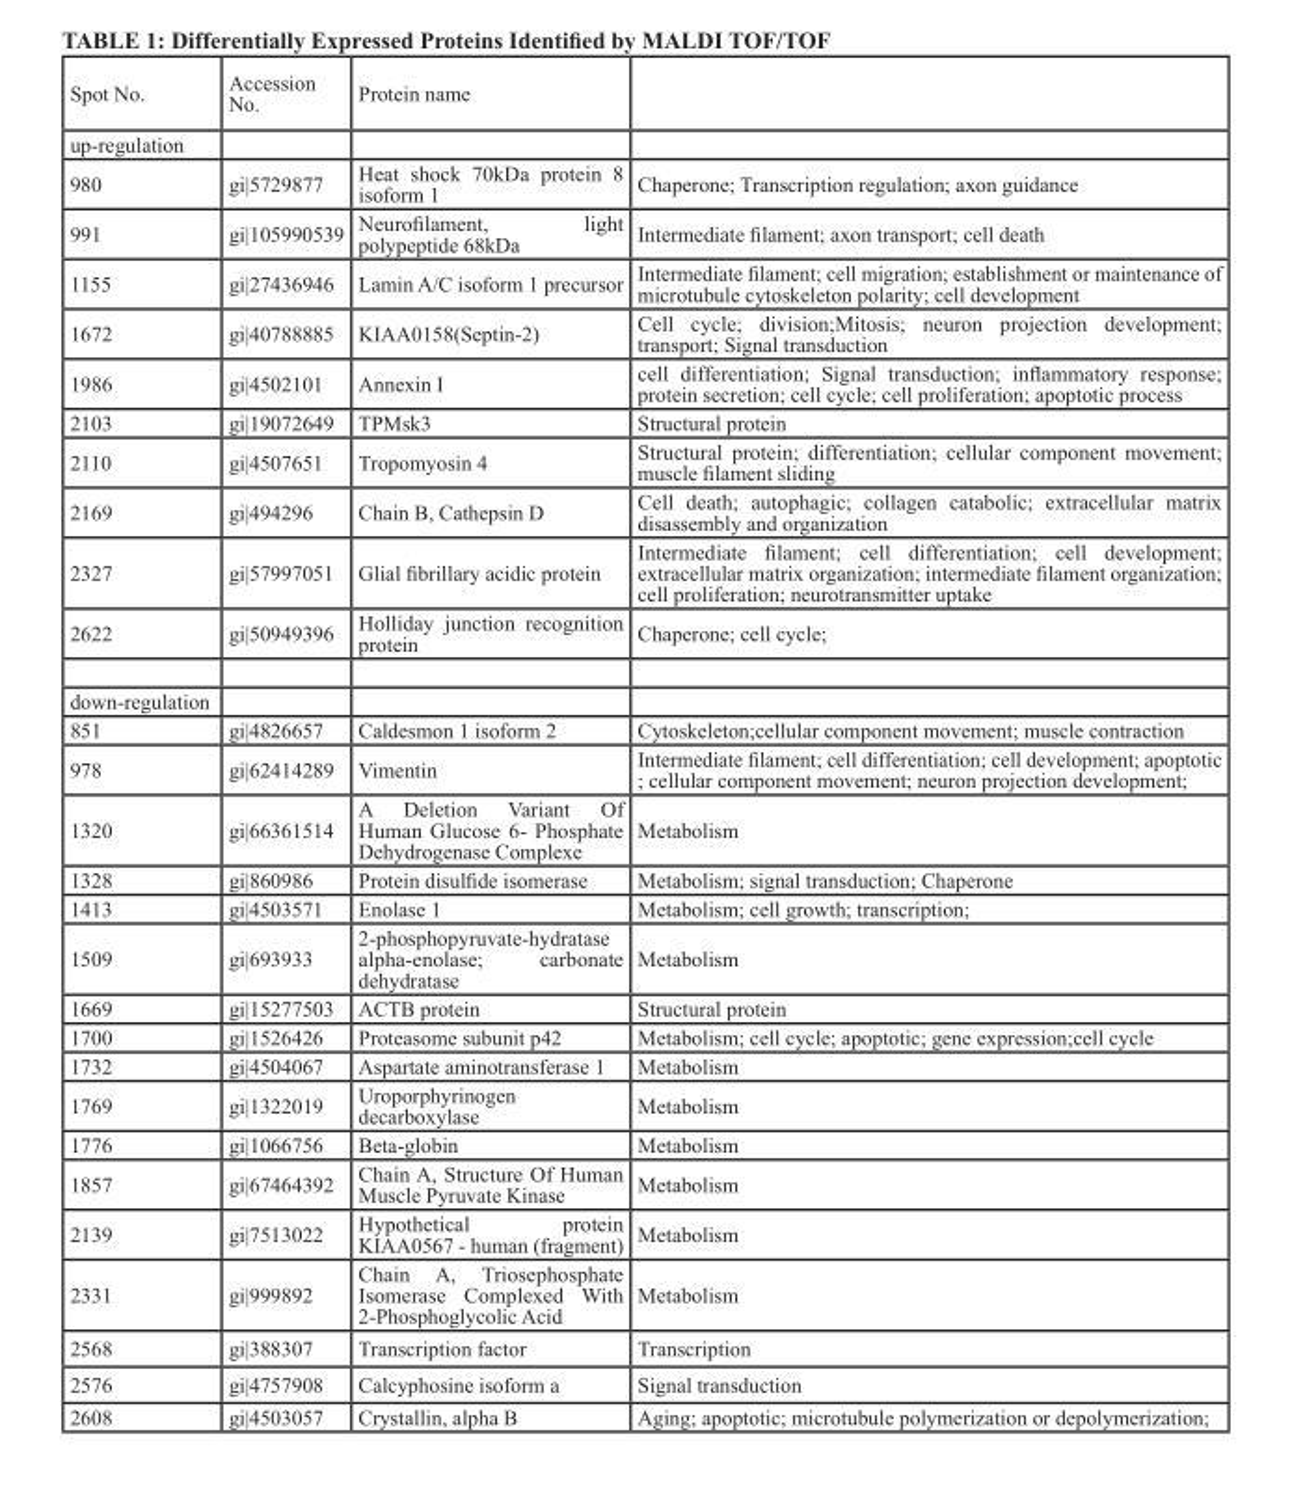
<table><thead><tr><td>Spot No.</td><td>Accession No.</td><td>Protein name</td><td></td></tr></thead><tbody><tr><td colspan="4">up-regulation</td></tr><tr><td>980</td><td>gi|5729877</td><td>Heat shock 70kDa protein 8 isoform 1</td><td>Chaperone; Transcription regulation; axon guidance</td></tr><tr><td>991</td><td>gi|105990539</td><td>Neurofilament, light polypeptide 68kDa</td><td>Intermediate filament; axon transport; cell death</td></tr><tr><td>1155</td><td>gi|27436946</td><td>Lamin A/C isoform 1 precursor</td><td>Intermediate filament; cell migration; establishment or maintenance of microtubule cytoskeleton polarity; cell development</td></tr><tr><td>1672</td><td>gi|40788885</td><td>KIAA0158(Septin-2)</td><td>Cell cycle; division;Mitosis; neuron projection development; transport; Signal transduction</td></tr><tr><td>1986</td><td>gi|4502101</td><td>Annexin I</td><td>cell differentiation; Signal transduction; inflammatory response; protein secretion; cell cycle; cell proliferation; apoptotic process</td></tr><tr><td>2103</td><td>gi|19072649</td><td>TPMsk3</td><td>Structural protein</td></tr><tr><td>2110</td><td>gi|4507651</td><td>Tropomyosin 4</td><td>Structural protein; differentiation; cellular component movement; muscle filament sliding</td></tr><tr><td>2169</td><td>gi|494296</td><td>Chain B, Cathepsin D</td><td>Cell death; autophagic; collagen catabolic; extracellular matrix disassembly and organization</td></tr><tr><td>2327</td><td>gi|57997051</td><td>Glial fibrillary acidic protein</td><td>Intermediate filament; cell differentiation; cell development; extracellular matrix organization; intermediate filament organization; cell proliferation; neurotransmitter uptake</td></tr><tr><td>2622</td><td>gi|50949396</td><td>Holliday junction recognition protein</td><td>Chaperone; cell cycle;</td></tr><tr><td colspan="4">down-regulation</td></tr><tr><td>851</td><td>gi|4826657</td><td>Caldesmon 1 isoform 2</td><td>Cytoskeleton;cellular component movement; muscle contraction</td></tr><tr><td>978</td><td>gi|62414289</td><td>Vimentin</td><td>Intermediate filament; cell differentiation; cell development; apoptotic ; cellular component movement; neuron projection development;</td></tr><tr><td>1320</td><td>gi|66361514</td><td>A Deletion Variant Of Human Glucose 6- Phosphate Dehydrogenase Complexe</td><td>Metabolism</td></tr><tr><td>1328</td><td>gi|860986</td><td>Protein disulfide isomerase</td><td>Metabolism; signal transduction; Chaperone</td></tr><tr><td>1413</td><td>gi|4503571</td><td>Enolase 1</td><td>Metabolism; cell growth; transcription;</td></tr><tr><td>1509</td><td>gi|693933</td><td>2-phosphopyruvate-hydratase alpha-enolase; carbonate dehydratase</td><td>Metabolism</td></tr><tr><td>1669</td><td>gi|15277503</td><td>ACTB protein</td><td>Structural protein</td></tr><tr><td>1700</td><td>gi|1526426</td><td>Proteasome subunit p42</td><td>Metabolism; cell cycle; apoptotic; gene expression;cell cycle</td></tr><tr><td>1732</td><td>gi|4504067</td><td>Aspartate aminotransferase 1</td><td>Metabolism</td></tr><tr><td>1769</td><td>gi|1322019</td><td>Uroporphyrinogen decarboxylase</td><td>Metabolism</td></tr><tr><td>1776</td><td>gi|1066756</td><td>Beta-globin</td><td>Metabolism</td></tr><tr><td>1857</td><td>gi|67464392</td><td>Chain A, Structure Of Human Muscle Pyruvate Kinase</td><td>Metabolism</td></tr><tr><td>2139</td><td>gi|7513022</td><td>Hypothetical protein KIAA0567 - human (fragment)</td><td>Metabolism</td></tr><tr><td>2331</td><td>gi|999892</td><td>Chain A, Triosephosphate Isomerase Complexed With 2-Phosphoglycolic Acid</td><td>Metabolism</td></tr><tr><td>2568</td><td>gi|388307</td><td>Transcription factor</td><td>Transcription</td></tr><tr><td>2576</td><td>gi|4757908</td><td>Calcyphosine isoform a</td><td>Signal transduction</td></tr><tr><td>2608</td><td>gi|4503057</td><td>Crystallin, alpha B</td><td>Aging; apoptotic; microtubule polymerization or depolymerization;</td></tr></tbody></table>